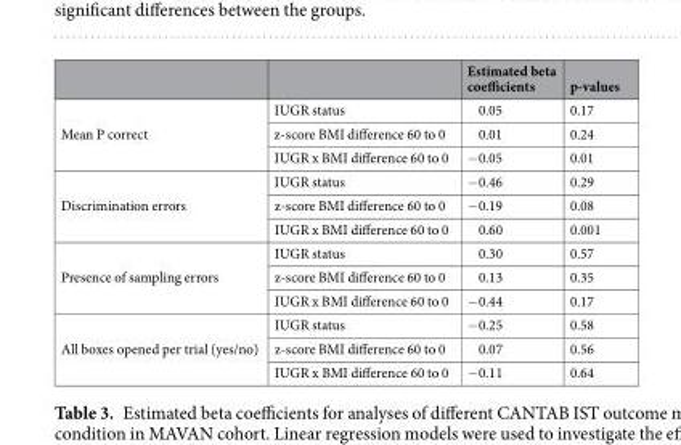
<table><thead><tr><td></td><td></td><td>Estimated beta coefficients</td><td>p-values</td></tr></thead><tbody><tr><td rowspan="3">Mean P correct</td><td>IUGR status</td><td>0.05</td><td>0.17</td></tr><tr><td>z-score BMI difference 60 to 0</td><td>0.01</td><td>0.24</td></tr><tr><td>IUGR x BMI difference 60 to 0</td><td>−0.05</td><td>0.01</td></tr><tr><td rowspan="3">Discrimination errors</td><td>IUGR status</td><td>−0.46</td><td>0.29</td></tr><tr><td>z-score BMI difference 60 to 0</td><td>−0.19</td><td>0.08</td></tr><tr><td>IUGR x BMI difference 60 to 0</td><td>0.60</td><td>0.001</td></tr><tr><td rowspan="3">Presence of sampling errors</td><td>IUGR status</td><td>0.30</td><td>0.57</td></tr><tr><td>z-score BMI difference 60 to 0</td><td>0.13</td><td>0.35</td></tr><tr><td>IUGR x BMI difference 60 to 0</td><td>−0.44</td><td>0.17</td></tr><tr><td rowspan="3">All boxes opened per trial (yes/no)</td><td>IUGR status</td><td>−0.25</td><td>0.58</td></tr><tr><td>z-score BMI difference 60 to 0</td><td>0.07</td><td>0.56</td></tr><tr><td>IUGR x BMI difference 60 to 0</td><td>−0.11</td><td>0.64</td></tr></tbody></table>